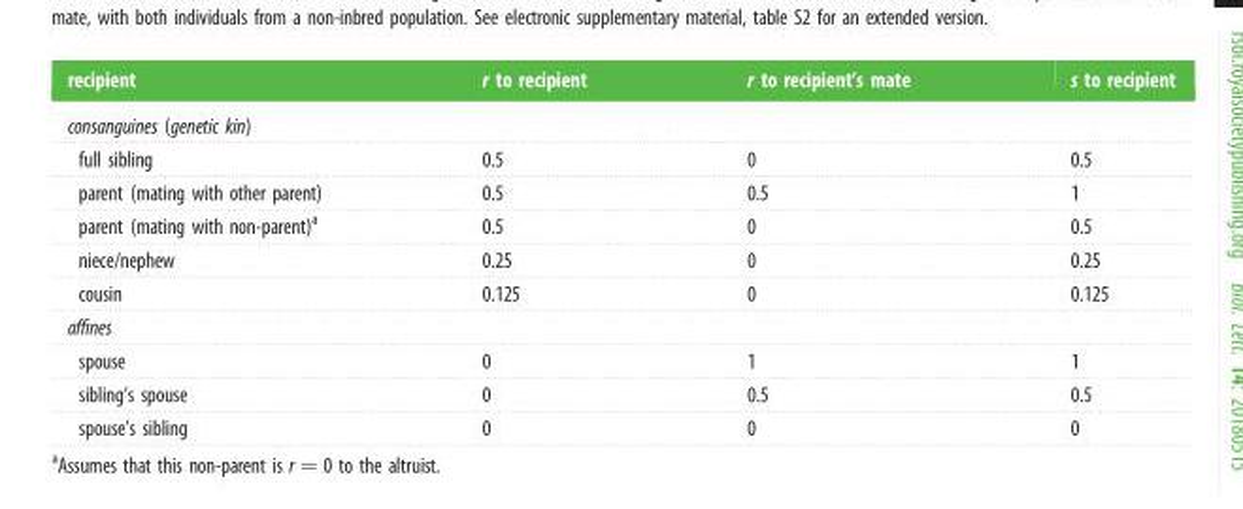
<table><thead><tr><td>recipient</td><td>r to recipient</td><td>r to recipient’s mate</td><td>s to recipient</td></tr></thead><tbody><tr><td colspan="4">consanguines (genetic kin)</td></tr><tr><td>full sibling</td><td>0.5</td><td>0</td><td>0.5</td></tr><tr><td>parent (mating with other parent)</td><td>0.5</td><td>0.5</td><td>1</td></tr><tr><td>parent (mating with non-parent)<sup>a</sup></td><td>0.5</td><td>0</td><td>0.5</td></tr><tr><td>niece/nephew</td><td>0.25</td><td>0</td><td>0.25</td></tr><tr><td>cousin</td><td>0.125</td><td>0</td><td>0.125</td></tr><tr><td colspan="4">affines</td></tr><tr><td>spouse</td><td>0</td><td>1</td><td>1</td></tr><tr><td>sibling’s spouse</td><td>0</td><td>0.5</td><td>0.5</td></tr><tr><td>spouse’s sibling</td><td>0</td><td>0</td><td>0</td></tr></tbody></table>